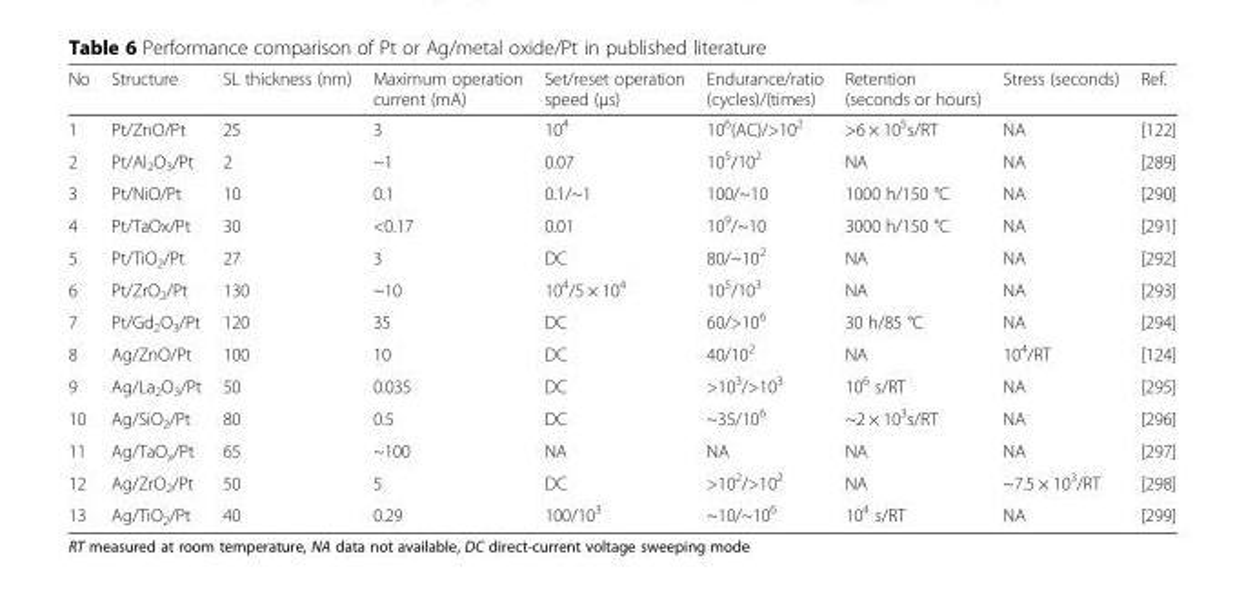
<table><thead><tr><td>No</td><td>Structure</td><td>SL thickness (nm)</td><td>Maximum operation current (mA)</td><td>Set/reset operation speed (μs)</td><td>Endurance/ratio (cycles)/(times)</td><td>Retention (seconds or hours)</td><td>Stress (seconds)</td><td>Ref.</td></tr></thead><tbody><tr><td>1</td><td>Pt/ZnO/Pt</td><td>25</td><td>3</td><td>10<sup>4</sup></td><td>10<sup>6</sup>(AC)/&gt;10<sup>2</sup></td><td>&gt;6 × 10<sup>5</sup>s/RT</td><td>NA</td><td>[122]</td></tr><tr><td>2</td><td>Pt/Al<sub>2</sub>O<sub>3</sub>/Pt</td><td>2</td><td>~1</td><td>0.07</td><td>10<sup>5</sup>/10<sup>2</sup></td><td>NA</td><td>NA</td><td>[289]</td></tr><tr><td>3</td><td>Pt/NiO/Pt</td><td>10</td><td>0.1</td><td>0.1/~1</td><td>100/~10</td><td>1000 h/150 °C</td><td>NA</td><td>[290]</td></tr><tr><td>4</td><td>Pt/TaOx/Pt</td><td>30</td><td>&lt;0.17</td><td>0.01</td><td>10<sup>9</sup>/~10</td><td>3000 h/150 °C</td><td>NA</td><td>[291]</td></tr><tr><td>5</td><td>Pt/TiO<sub>2</sub>/Pt</td><td>27</td><td>3</td><td>DC</td><td>80/~10<sup>2</sup></td><td>NA</td><td>NA</td><td>[292]</td></tr><tr><td>6</td><td>Pt/ZrO<sub>2</sub>/Pt</td><td>130</td><td>~10</td><td>10<sup>4</sup>/5 × 10<sup>4</sup></td><td>10<sup>5</sup>/10<sup>3</sup></td><td>NA</td><td>NA</td><td>[293]</td></tr><tr><td>7</td><td>Pt/Gd<sub>2</sub>O<sub>3</sub>/Pt</td><td>120</td><td>35</td><td>DC</td><td>60/&gt;10<sup>6</sup></td><td>30 h/85 °C</td><td>NA</td><td>[294]</td></tr><tr><td>8</td><td>Ag/ZnO/Pt</td><td>100</td><td>10</td><td>DC</td><td>40/10<sup>2</sup></td><td>NA</td><td>10<sup>4</sup>/RT</td><td>[124]</td></tr><tr><td>9</td><td>Ag/La<sub>2</sub>O<sub>3</sub>/Pt</td><td>50</td><td>0.035</td><td>DC</td><td>&gt;10<sup>3</sup>/&gt;10<sup>3</sup></td><td>10<sup>6</sup> s/RT</td><td>NA</td><td>[295]</td></tr><tr><td>10</td><td>Ag/SiO<sub>2</sub>/Pt</td><td>80</td><td>0.5</td><td>DC</td><td>~35/10<sup>6</sup></td><td>~2 × 10<sup>3</sup>s/RT</td><td>NA</td><td>[296]</td></tr><tr><td>11</td><td>Ag/TaO<sub>x</sub>/Pt</td><td>65</td><td>~100</td><td>NA</td><td>NA</td><td>NA</td><td>NA</td><td>[297]</td></tr><tr><td>12</td><td>Ag/ZrO<sub>2</sub>/Pt</td><td>50</td><td>5</td><td>DC</td><td>&gt;10<sup>2</sup>/&gt;10<sup>2</sup></td><td>NA</td><td>~7.5 × 10<sup>3</sup>/RT</td><td>[298]</td></tr><tr><td>13</td><td>Ag/TiO<sub>2</sub>/Pt</td><td>40</td><td>0.29</td><td>100/10<sup>3</sup></td><td>~10/~10<sup>6</sup></td><td>10<sup>4</sup> s/RT</td><td>NA</td><td>[299]</td></tr></tbody></table>